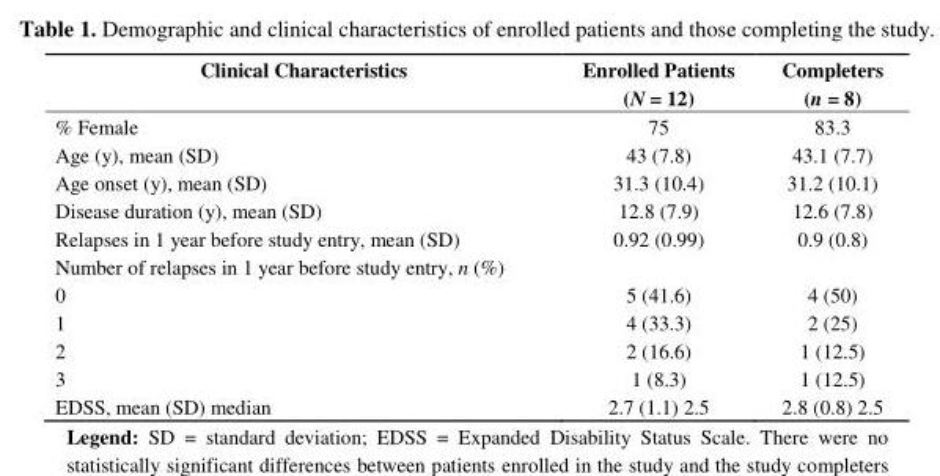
<table><thead><tr><td>Clinical Characteristics</td><td>Enrolled Patients (N = 12)</td><td>Completers (n = 8)</td></tr></thead><tbody><tr><td>% Female</td><td>75</td><td>83.3</td></tr><tr><td>Age (y), mean (SD)</td><td>43 (7.8)</td><td>43.1 (7.7)</td></tr><tr><td>Age onset (y), mean (SD)</td><td>31.3 (10.4)</td><td>31.2 (10.1)</td></tr><tr><td>Disease duration (y), mean (SD)</td><td>12.8 (7.9)</td><td>12.6 (7.8)</td></tr><tr><td>Relapses in 1 year before study entry, mean (SD)</td><td>0.92 (0.99)</td><td>0.9 (0.8)</td></tr><tr><td colspan="3">Number of relapses in 1 year before study entry, n (%)</td></tr><tr><td>0</td><td>5 (41.6)</td><td>4 (50)</td></tr><tr><td>1</td><td>4 (33.3)</td><td>2 (25)</td></tr><tr><td>2</td><td>2 (16.6)</td><td>1 (12.5)</td></tr><tr><td>3</td><td>1 (8.3)</td><td>1 (12.5)</td></tr><tr><td>EDSS, mean (SD) median</td><td>2.7 (1.1) 2.5</td><td>2.8 (0.8) 2.5</td></tr></tbody></table>